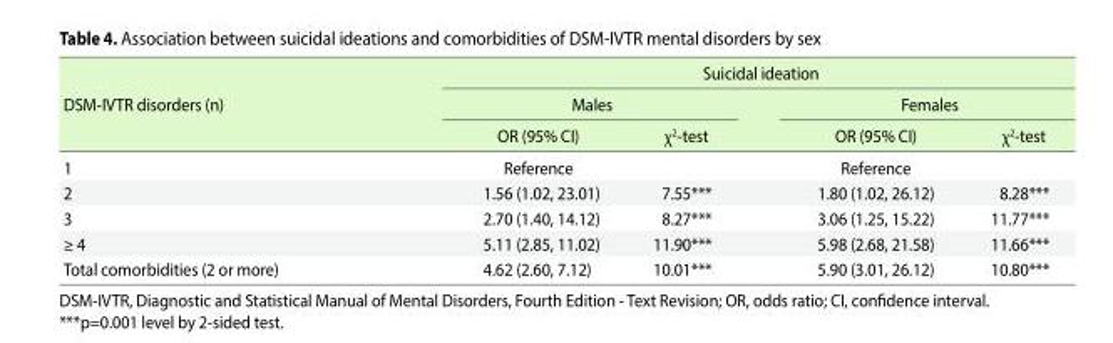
<table><thead><tr><td rowspan="3">DSM-IVTR disorders (n)</td><td colspan="4">Suicidal ideation</td></tr><tr><td colspan="2">Males</td><td colspan="2">Females</td></tr><tr><td>OR (95% CI)</td><td>χ2-test</td><td>OR (95% CI)</td><td>χ2-test</td></tr></thead><tbody><tr><td>1</td><td>Reference</td><td></td><td>Reference</td><td></td></tr><tr><td>2</td><td>1.56 (1.02, 23.01)</td><td>7.55***</td><td>1.80 (1.02, 26.12)</td><td>8.28***</td></tr><tr><td>3</td><td>2.70 (1.40, 14.12)</td><td>8.27***</td><td>3.06 (1.25, 15.22)</td><td>11.77***</td></tr><tr><td>≥ 4</td><td>5.11 (2.85, 11.02)</td><td>11.90***</td><td>5.98 (2.68, 21.58)</td><td>11.66***</td></tr><tr><td>Total comorbidities (2 or more)</td><td>4.62 (2.60, 7.12)</td><td>10.01***</td><td>5.90 (3.01, 26.12)</td><td>10.80***</td></tr></tbody></table>